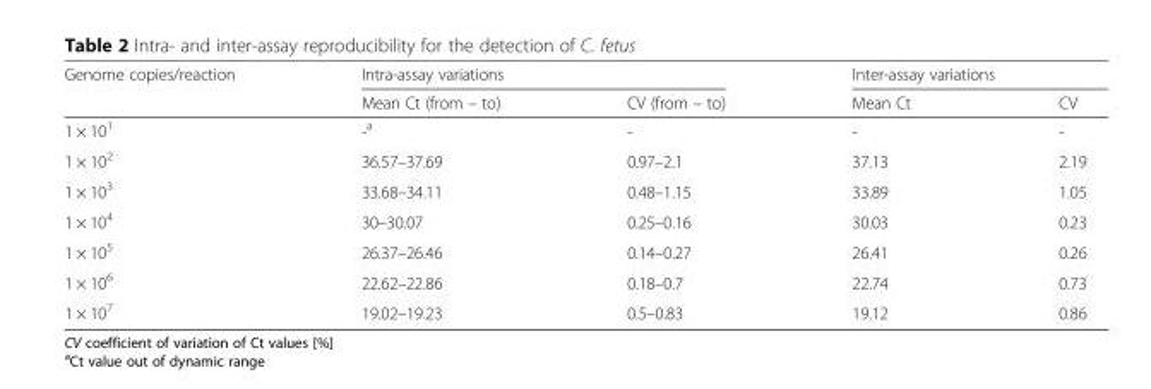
<table><thead><tr><td rowspan="2">Genome copies/reaction</td><td colspan="2">Intra-assay variations</td><td colspan="2">Inter-assay variations</td></tr><tr><td>Mean Ct (from – to)</td><td>CV (from – to)</td><td>Mean Ct</td><td>CV</td></tr></thead><tbody><tr><td>1 × 10<sup>1</sup></td><td>-<sup>a</sup></td><td>-</td><td>-</td><td>-</td></tr><tr><td>1 × 10<sup>2</sup></td><td>36.57–37.69</td><td>0.97–2.1</td><td>37.13</td><td>2.19</td></tr><tr><td>1 × 10<sup>3</sup></td><td>33.68–34.11</td><td>0.48–1.15</td><td>33.89</td><td>1.05</td></tr><tr><td>1 × 10<sup>4</sup></td><td>30–30.07</td><td>0.25–0.16</td><td>30.03</td><td>0.23</td></tr><tr><td>1 × 10<sup>5</sup></td><td>26.37–26.46</td><td>0.14–0.27</td><td>26.41</td><td>0.26</td></tr><tr><td>1 × 10<sup>6</sup></td><td>22.62–22.86</td><td>0.18–0.7</td><td>22.74</td><td>0.73</td></tr><tr><td>1 × 10<sup>7</sup></td><td>19.02–19.23</td><td>0.5–0.83</td><td>19.12</td><td>0.86</td></tr></tbody></table>